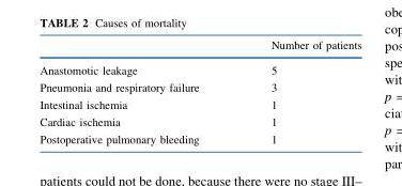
<table><thead><tr><td></td><td>Number of patients</td></tr></thead><tbody><tr><td>Anastomotic leakage</td><td>5</td></tr><tr><td>Pneumonia and respiratory failure</td><td>3</td></tr><tr><td>Intestinal ischemia</td><td>1</td></tr><tr><td>Cardiac ischemia</td><td>1</td></tr><tr><td>Postoperative pulmonary bleeding</td><td>1</td></tr></tbody></table>